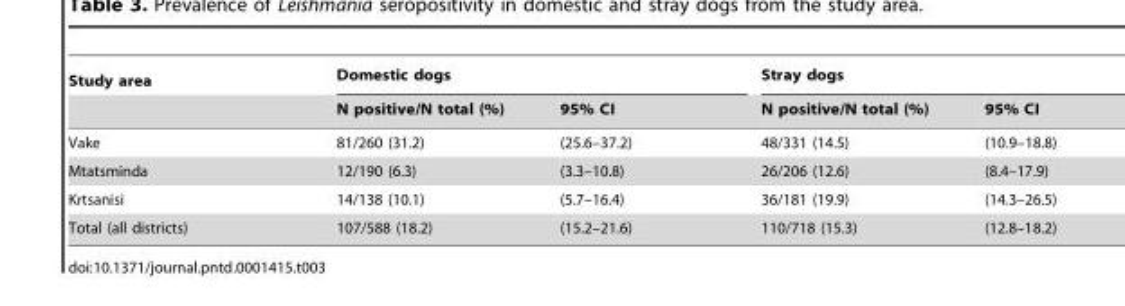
<table><thead><tr><td rowspan="2">Study area</td><td colspan="2">Domestic dogs</td><td colspan="2">Stray dogs</td></tr><tr><td>N positive/N total (%)</td><td>95% CI</td><td>N positive/N total (%)</td><td>95% CI</td></tr></thead><tbody><tr><td>Vake</td><td>81/260 (31.2)</td><td>(25.6–37.2)</td><td>48/331 (14.5)</td><td>(10.9–18.8)</td></tr><tr><td>Mtatsminda</td><td>12/190 (6.3)</td><td>(3.3–10.8)</td><td>26/206 (12.6)</td><td>(8.4–17.9)</td></tr><tr><td>Krtsanisi</td><td>14/138 (10.1)</td><td>(5.7–16.4)</td><td>36/181 (19.9)</td><td>(14.3–26.5)</td></tr><tr><td>Total (all districts)</td><td>107/588 (18.2)</td><td>(15.2–21.6)</td><td>110/718 (15.3)</td><td>(12.8–18.2)</td></tr></tbody></table>